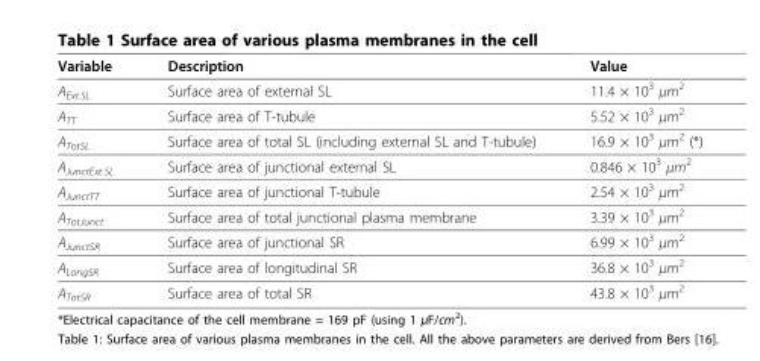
<table><thead><tr><td>Variable</td><td>Description</td><td>Value</td></tr></thead><tbody><tr><td>A<sub>Ext.SL</sub></td><td>Surface area of external SL</td><td>11.4 × 10<sup>3</sup> μm<sup>2</sup></td></tr><tr><td>A<sub>TT</sub></td><td>Surface area of T-tubule</td><td>5.52 × 10<sup>3</sup> μm<sup>2</sup></td></tr><tr><td>A<sub>TotSL</sub></td><td>Surface area of total SL (including external SL and T-tubule)</td><td>16.9 × 10<sup>3</sup> μm<sup>2</sup> (*)</td></tr><tr><td>A<sub>JunctExt.SL</sub></td><td>Surface area of junctional external SL</td><td>0.846 × 10<sup>3</sup> μm<sup>2</sup></td></tr><tr><td>A<sub>JunctTT</sub></td><td>Surface area of junctional T-tubule</td><td>2.54 × 10<sup>3</sup> μm<sup>2</sup></td></tr><tr><td>A<sub>TotJunct</sub></td><td>Surface area of total junctional plasma membrane</td><td>3.39 × 10<sup>3</sup> μm<sup>2</sup></td></tr><tr><td>A<sub>JunctSR</sub></td><td>Surface area of junctional SR</td><td>6.99 × 10<sup>3</sup> μm<sup>2</sup></td></tr><tr><td>A<sub>LongSR</sub></td><td>Surface area of longitudinal SR</td><td>36.8 × 10<sup>3</sup> μm<sup>2</sup></td></tr><tr><td>A<sub>TotSR</sub></td><td>Surface area of total SR</td><td>43.8 × 10<sup>3</sup> μm<sup>2</sup></td></tr></tbody></table>